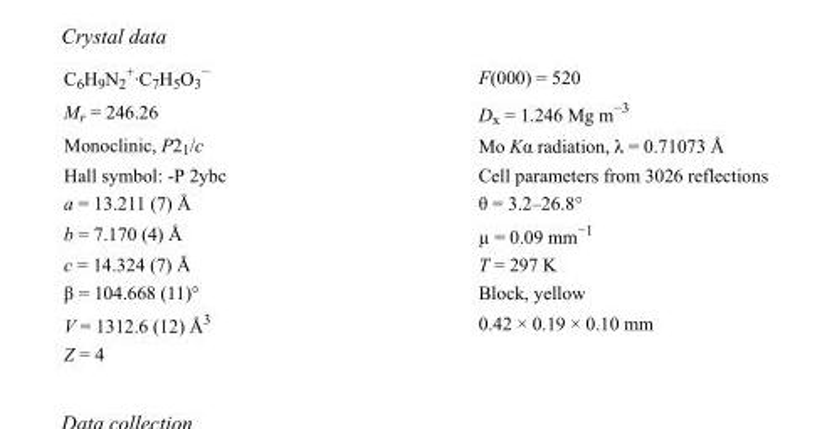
<table><tbody><tr><td>C<sub>6</sub>H<sub>9</sub>N<sub>2</sub> <sup>+</sup>·C<sub>7</sub>H<sub>5</sub>O<sub>3</sub> <sup>−</sup></td><td>F(000) = 520</td></tr><tr><td>M<sub>r</sub> = 246.26</td><td>D<sub>x</sub> = 1.246 Mg m<sup>−3</sup></td></tr><tr><td>Monoclinic, P2<sub>1</sub>/c</td><td>Mo Kα radiation, λ = 0.71073 Å</td></tr><tr><td>Hall symbol: -P 2ybc</td><td>Cell parameters from 3026 reflections</td></tr><tr><td>a = 13.211 (7) Å</td><td>θ = 3.2–26.8°</td></tr><tr><td>b = 7.170 (4) Å</td><td>µ = 0.09 mm<sup>−1</sup></td></tr><tr><td>c = 14.324 (7) Å</td><td>T = 297 K</td></tr><tr><td>β = 104.668 (11)°</td><td>Block, yellow</td></tr><tr><td>V = 1312.6 (12) Å<sup>3</sup></td><td>0.42 × 0.19 × 0.10 mm</td></tr><tr><td>Z = 4</td><td></td></tr></tbody></table>